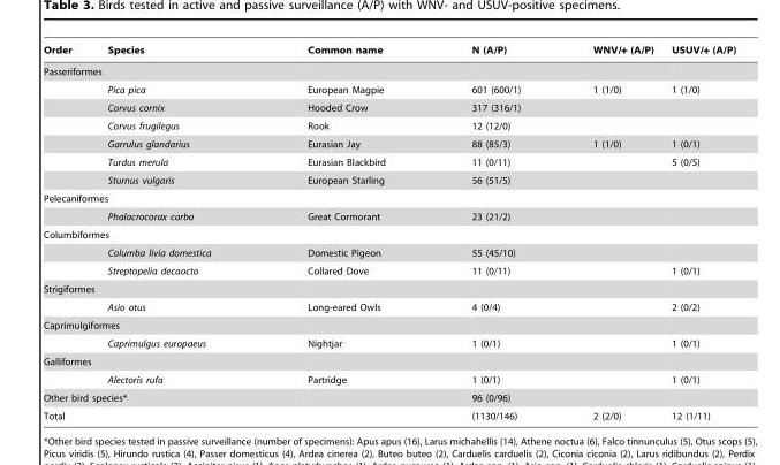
<table><thead><tr><td>Order</td><td>Species</td><td>Common name</td><td>N (A/P)</td><td>WNV/+ (A/P)</td><td>USUV/+ (A/P)</td></tr></thead><tbody><tr><td colspan="6">Passeriformes</td></tr><tr><td></td><td>Pica pica</td><td>European Magpie</td><td>601 (600/1)</td><td>1 (1/0)</td><td>1 (1/0)</td></tr><tr><td></td><td>Corvus cornix</td><td>Hooded Crow</td><td>317 (316/1)</td><td></td><td></td></tr><tr><td></td><td>Corvus frugilegus</td><td>Rook</td><td>12 (12/0)</td><td></td><td></td></tr><tr><td></td><td>Garrulus glandarius</td><td>Eurasian Jay</td><td>88 (85/3)</td><td>1 (1/0)</td><td>1 (0/1)</td></tr><tr><td></td><td>Turdus merula</td><td>Eurasian Blackbird</td><td>11 (0/11)</td><td></td><td>5 (0/5)</td></tr><tr><td></td><td>Sturnus vulgaris</td><td>European Starling</td><td>56 (51/5)</td><td></td><td></td></tr><tr><td colspan="6">Pelecaniformes</td></tr><tr><td></td><td>Phalacrocorax carbo</td><td>Great Cormorant</td><td>23 (21/2)</td><td></td><td></td></tr><tr><td colspan="6">Columbiformes</td></tr><tr><td></td><td>Columba livia domestica</td><td>Domestic Pigeon</td><td>55 (45/10)</td><td></td><td></td></tr><tr><td></td><td>Streptopelia decaocto</td><td>Collared Dove</td><td>11 (0/11)</td><td></td><td>1 (0/1)</td></tr><tr><td colspan="6">Strigiformes</td></tr><tr><td></td><td>Asio otus</td><td>Long-eared Owls</td><td>4 (0/4)</td><td></td><td>2 (0/2)</td></tr><tr><td colspan="6">Caprimulgiformes</td></tr><tr><td></td><td>Caprimulgus europaeus</td><td>Nightjar</td><td>1 (0/1)</td><td></td><td>1 (0/1)</td></tr><tr><td colspan="6">Galliformes</td></tr><tr><td></td><td>Alectoris rufa</td><td>Partridge</td><td>1 (0/1)</td><td></td><td>1 (0/1)</td></tr><tr><td colspan="2">Other bird species*</td><td></td><td>96 (0/96)</td><td></td><td></td></tr><tr><td>Total</td><td></td><td></td><td>(1130/146)</td><td>2 (2/0)</td><td>12 (1/11)</td></tr></tbody></table>